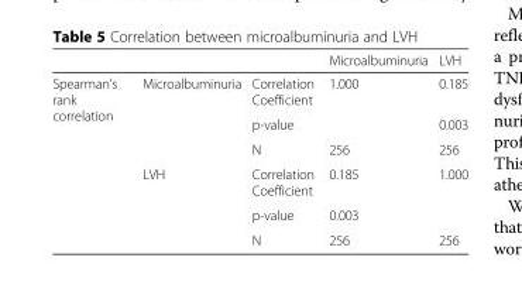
<table><thead><tr><td></td><td></td><td></td><td>Microalbuminuria</td><td>LVH</td></tr></thead><tbody><tr><td rowspan="6">Spearman&#x27;s rank correlation</td><td rowspan="3">Microalbuminuria</td><td>Correlation Coefficient</td><td>1.000</td><td>0.185</td></tr><tr><td>p-value</td><td></td><td>0.003</td></tr><tr><td>N</td><td>256</td><td>256</td></tr><tr><td rowspan="3">LVH</td><td>Correlation Coefficient</td><td>0.185</td><td>1.000</td></tr><tr><td>p-value</td><td>0.003</td><td></td></tr><tr><td>N</td><td>256</td><td>256</td></tr></tbody></table>